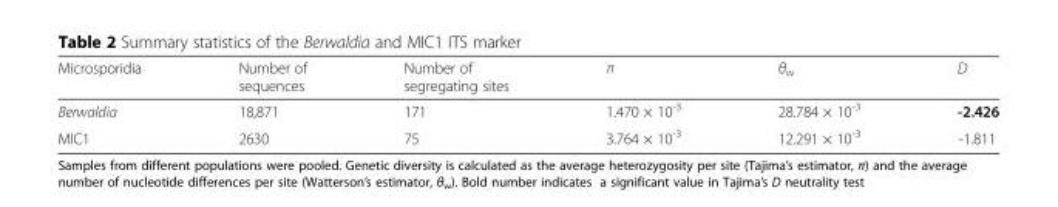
<table><thead><tr><td>Microsporidia</td><td>Number of sequences</td><td>Number of segregating sites</td><td>π</td><td>θ<sub>w</sub></td><td>D</td></tr></thead><tbody><tr><td>Berwaldia</td><td>18,871</td><td>171</td><td>1.470 × 10<sup>-3</sup></td><td>28.784 × 10<sup>-3</sup></td><td>-2.426</td></tr><tr><td>MIC1</td><td>2630</td><td>75</td><td>3.764 × 10<sup>-3</sup></td><td>12.291 × 10<sup>-3</sup></td><td>-1.811</td></tr></tbody></table>